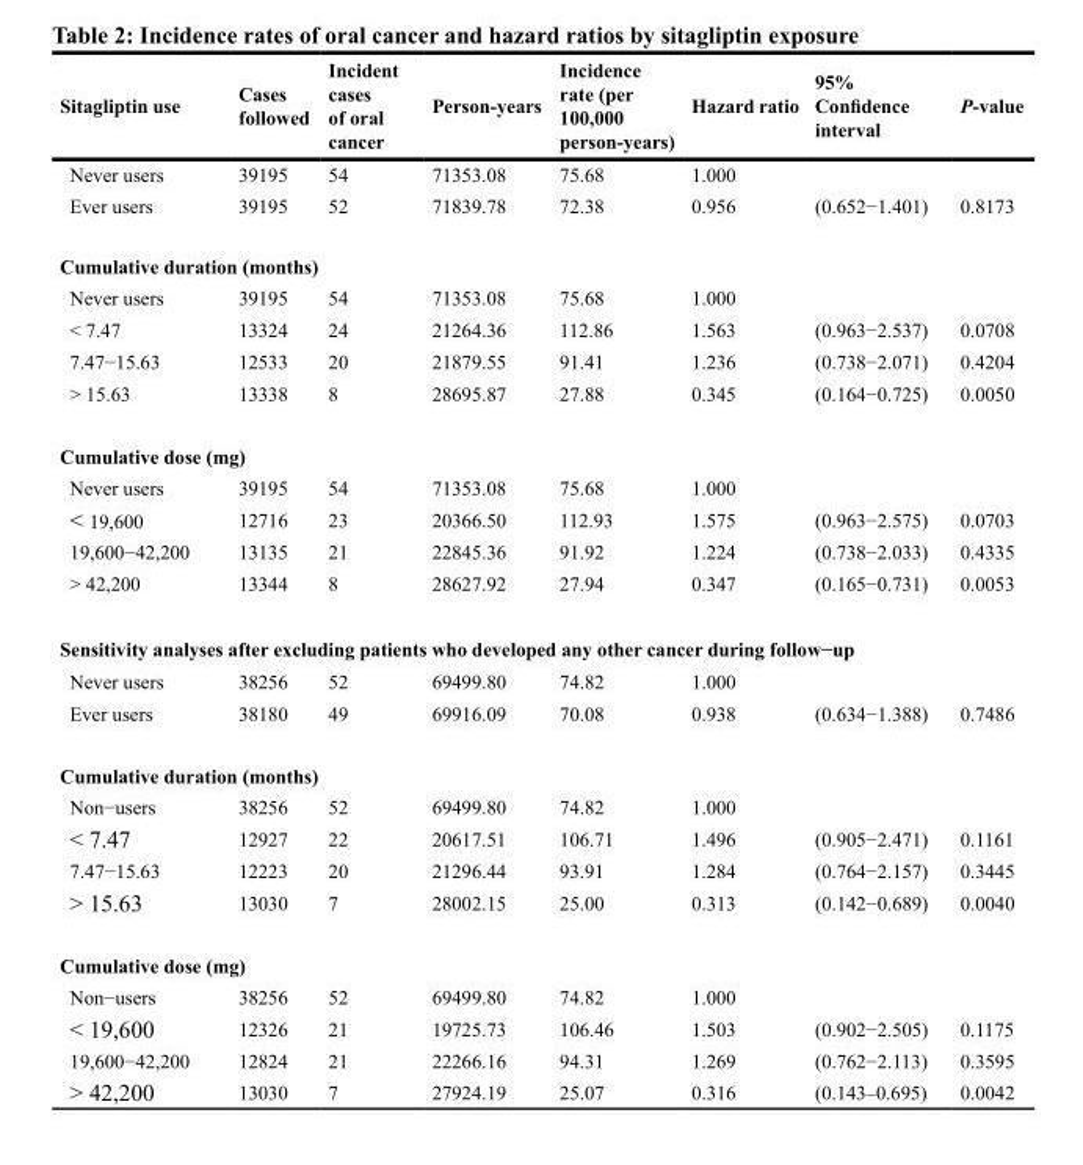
<table><thead><tr><td>Sitagliptin use</td><td>Cases followed</td><td>Incident cases of oral cancer</td><td>Person-years</td><td>Incidence rate (per 100,000 person-years)</td><td>Hazard ratio</td><td>95% Confidence interval</td><td>P-value</td></tr></thead><tbody><tr><td>Never users</td><td>39195</td><td>54</td><td>71353.08</td><td>75.68</td><td>1.000</td><td></td><td></td></tr><tr><td>Ever users</td><td>39195</td><td>52</td><td>71839.78</td><td>72.38</td><td>0.956</td><td>(0.652−1.401)</td><td>0.8173</td></tr><tr><td colspan="8">Cumulative duration (months)</td></tr><tr><td>Never users</td><td>39195</td><td>54</td><td>71353.08</td><td>75.68</td><td>1.000</td><td></td><td></td></tr><tr><td>&lt; 7.47</td><td>13324</td><td>24</td><td>21264.36</td><td>112.86</td><td>1.563</td><td>(0.963−2.537)</td><td>0.0708</td></tr><tr><td>7.47−15.63</td><td>12533</td><td>20</td><td>21879.55</td><td>91.41</td><td>1.236</td><td>(0.738−2.071)</td><td>0.4204</td></tr><tr><td>&gt; 15.63</td><td>13338</td><td>8</td><td>28695.87</td><td>27.88</td><td>0.345</td><td>(0.164−0.725)</td><td>0.0050</td></tr><tr><td colspan="8">Cumulative dose (mg)</td></tr><tr><td>Never users</td><td>39195</td><td>54</td><td>71353.08</td><td>75.68</td><td>1.000</td><td></td><td></td></tr><tr><td>&lt; 19,600</td><td>12716</td><td>23</td><td>20366.50</td><td>112.93</td><td>1.575</td><td>(0.963−2.575)</td><td>0.0703</td></tr><tr><td>19,600−42,200</td><td>13135</td><td>21</td><td>22845.36</td><td>91.92</td><td>1.224</td><td>(0.738−2.033)</td><td>0.4335</td></tr><tr><td>&gt; 42,200</td><td>13344</td><td>8</td><td>28627.92</td><td>27.94</td><td>0.347</td><td>(0.165−0.731)</td><td>0.0053</td></tr><tr><td colspan="8">Sensitivity analyses after excluding patients who developed any other cancer during follow−up</td></tr><tr><td>Never users</td><td>38256</td><td>52</td><td>69499.80</td><td>74.82</td><td>1.000</td><td></td><td></td></tr><tr><td>Ever users</td><td>38180</td><td>49</td><td>69916.09</td><td>70.08</td><td>0.938</td><td>(0.634−1.388)</td><td>0.7486</td></tr><tr><td colspan="8">Cumulative duration (months)</td></tr><tr><td>Non−users</td><td>38256</td><td>52</td><td>69499.80</td><td>74.82</td><td>1.000</td><td></td><td></td></tr><tr><td>&lt; 7.47</td><td>12927</td><td>22</td><td>20617.51</td><td>106.71</td><td>1.496</td><td>(0.905−2.471)</td><td>0.1161</td></tr><tr><td>7.47−15.63</td><td>12223</td><td>20</td><td>21296.44</td><td>93.91</td><td>1.284</td><td>(0.764−2.157)</td><td>0.3445</td></tr><tr><td>&gt; 15.63</td><td>13030</td><td>7</td><td>28002.15</td><td>25.00</td><td>0.313</td><td>(0.142−0.689)</td><td>0.0040</td></tr><tr><td colspan="8">Cumulative dose (mg)</td></tr><tr><td>Non−users</td><td>38256</td><td>52</td><td>69499.80</td><td>74.82</td><td>1.000</td><td></td><td></td></tr><tr><td>&lt; 19,600</td><td>12326</td><td>21</td><td>19725.73</td><td>106.46</td><td>1.503</td><td>(0.902−2.505)</td><td>0.1175</td></tr><tr><td>19,600−42,200</td><td>12824</td><td>21</td><td>22266.16</td><td>94.31</td><td>1.269</td><td>(0.762−2.113)</td><td>0.3595</td></tr><tr><td>&gt; 42,200</td><td>13030</td><td>7</td><td>27924.19</td><td>25.07</td><td>0.316</td><td>(0.143–0.695)</td><td>0.0042</td></tr></tbody></table>